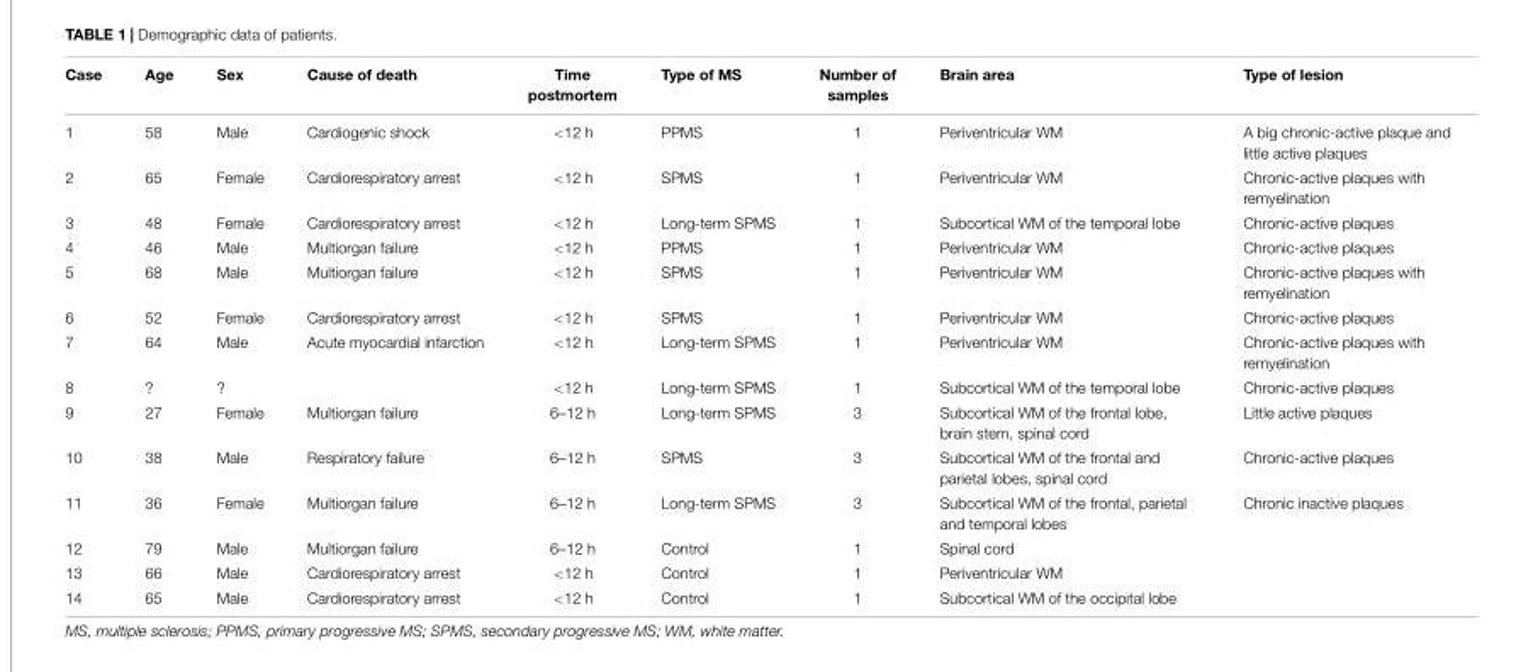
<table><thead><tr><td>Case</td><td>Age</td><td>Sex</td><td>Cause of death</td><td>Time postmortem</td><td>Type of MS</td><td>Number of samples</td><td>Brain area</td><td>Type of lesion</td></tr></thead><tbody><tr><td>1</td><td>58</td><td>Male</td><td>Cardiogenic shock</td><td>&lt;12 h</td><td>PPMS</td><td>1</td><td>Periventricular WM</td><td>A big chronic-active plaque and little active plaques</td></tr><tr><td>2</td><td>65</td><td>Female</td><td>Cardiorespiratory arrest</td><td>&lt;12 h</td><td>SPMS</td><td>1</td><td>Periventricular WM</td><td>Chronic-active plaques with remyelination</td></tr><tr><td>3</td><td>48</td><td>Female</td><td>Cardiorespiratory arrest</td><td>&lt;12 h</td><td>Long-term SPMS</td><td>1</td><td>Subcortical WM of the temporal lobe</td><td>Chronic-active plaques</td></tr><tr><td>4</td><td>46</td><td>Male</td><td>Multiorgan failure</td><td>&lt;12 h</td><td>PPMS</td><td>1</td><td>Periventricular WM</td><td>Chronic-active plaques</td></tr><tr><td>5</td><td>68</td><td>Male</td><td>Multiorgan failure</td><td>&lt;12 h</td><td>SPMS</td><td>1</td><td>Periventricular WM</td><td>Chronic-active plaques with remyelination</td></tr><tr><td>6</td><td>52</td><td>Female</td><td>Cardiorespiratory arrest</td><td>&lt;12 h</td><td>SPMS</td><td>1</td><td>Periventricular WM</td><td>Chronic-active plaques</td></tr><tr><td>7</td><td>64</td><td>Male</td><td>Acute myocardial infarction</td><td>&lt;12 h</td><td>Long-term SPMS</td><td>1</td><td>Periventricular WM</td><td>Chronic-active plaques with remyelination</td></tr><tr><td>8</td><td>?</td><td>?</td><td></td><td>&lt;12 h</td><td>Long-term SPMS</td><td>1</td><td>Subcortical WM of the temporal lobe</td><td>Chronic-active plaques</td></tr><tr><td>9</td><td>27</td><td>Female</td><td>Multiorgan failure</td><td>6–12 h</td><td>Long-term SPMS</td><td>3</td><td>Subcortical WM of the frontal lobe, brain stem, spinal cord</td><td>Little active plaques</td></tr><tr><td>10</td><td>38</td><td>Male</td><td>Respiratory failure</td><td>6–12 h</td><td>SPMS</td><td>3</td><td>Subcortical WM of the frontal and parietal lobes, spinal cord</td><td>Chronic-active plaques</td></tr><tr><td>11</td><td>36</td><td>Female</td><td>Multiorgan failure</td><td>6–12 h</td><td>Long-term SPMS</td><td>3</td><td>Subcortical WM of the frontal, parietal and temporal lobes</td><td>Chronic inactive plaques</td></tr><tr><td>12</td><td>79</td><td>Male</td><td>Multiorgan failure</td><td>6–12 h</td><td>Control</td><td>1</td><td>Spinal cord</td><td></td></tr><tr><td>13</td><td>66</td><td>Male</td><td>Cardiorespiratory arrest</td><td>&lt;12 h</td><td>Control</td><td>1</td><td>Periventricular WM</td><td></td></tr><tr><td>14</td><td>65</td><td>Male</td><td>Cardiorespiratory arrest</td><td>&lt;12 h</td><td>Control</td><td>1</td><td>Subcortical WM of the occipital lobe</td><td></td></tr></tbody></table>